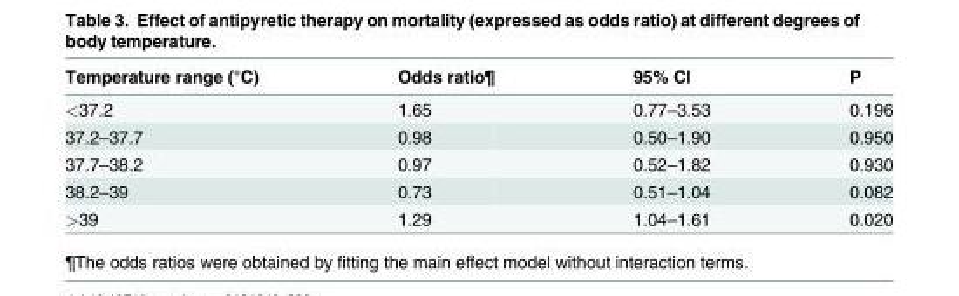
<table><thead><tr><td>Temperature range (°C)</td><td>Odds ratio¶</td><td>95% CI</td><td>P</td></tr></thead><tbody><tr><td>&lt;37.2</td><td>1.65</td><td>0.77–3.53</td><td>0.196</td></tr><tr><td>37.2–37.7</td><td>0.98</td><td>0.50–1.90</td><td>0.950</td></tr><tr><td>37.7–38.2</td><td>0.97</td><td>0.52–1.82</td><td>0.930</td></tr><tr><td>38.2–39</td><td>0.73</td><td>0.51–1.04</td><td>0.082</td></tr><tr><td>&gt;39</td><td>1.29</td><td>1.04–1.61</td><td>0.020</td></tr></tbody></table>